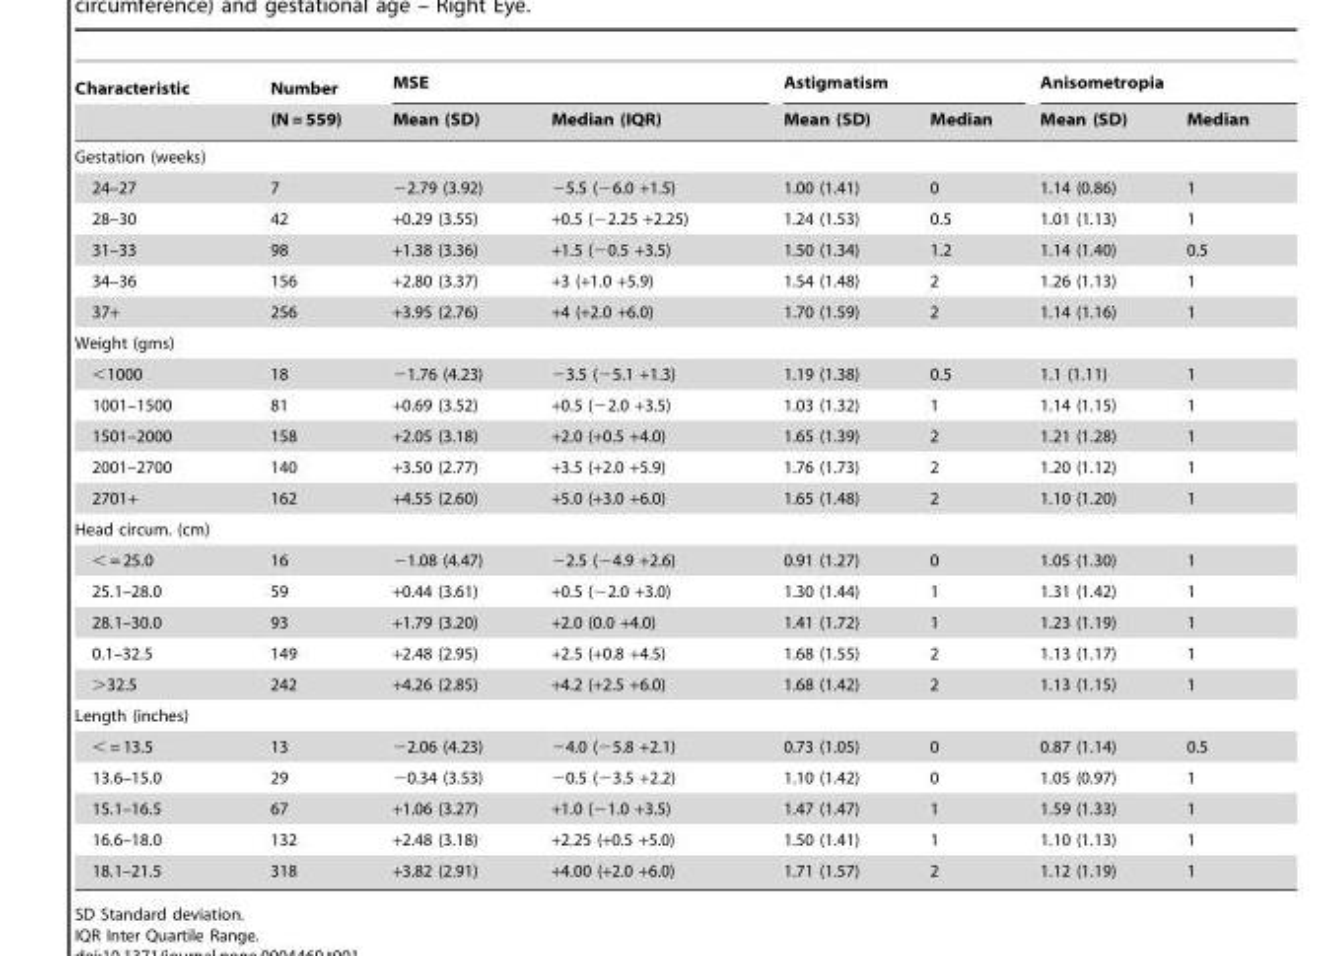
<table><thead><tr><td rowspan="2">Characteristic</td><td rowspan="2">Number (N = 559)</td><td colspan="2">MSE</td><td colspan="2">Astigmatism</td><td colspan="2">Anisometropia</td></tr><tr><td>Mean (SD)</td><td>Median (IQR)</td><td>Mean (SD)</td><td>Median</td><td>Mean (SD)</td><td>Median</td></tr></thead><tbody><tr><td colspan="8">Gestation (weeks)</td></tr><tr><td>24–27</td><td>7</td><td>−2.79 (3.92)</td><td>−5.5 (−6.0 +1.5)</td><td>1.00 (1.41)</td><td>0</td><td>1.14 (0.86)</td><td>1</td></tr><tr><td>28–30</td><td>42</td><td>+0.29 (3.55)</td><td>+0.5 (−2.25 +2.25)</td><td>1.24 (1.53)</td><td>0.5</td><td>1.01 (1.13)</td><td>1</td></tr><tr><td>31–33</td><td>98</td><td>+1.38 (3.36)</td><td>+1.5 (−0.5 +3.5)</td><td>1.50 (1.34)</td><td>1.2</td><td>1.14 (1.40)</td><td>0.5</td></tr><tr><td>34–36</td><td>156</td><td>+2.80 (3.37)</td><td>+3 (+1.0 +5.9)</td><td>1.54 (1.48)</td><td>2</td><td>1.26 (1.13)</td><td>1</td></tr><tr><td>37+</td><td>256</td><td>+3.95 (2.76)</td><td>+4 (+2.0 +6.0)</td><td>1.70 (1.59)</td><td>2</td><td>1.14 (1.16)</td><td>1</td></tr><tr><td colspan="8">Weight (gms)</td></tr><tr><td>&lt;1000</td><td>18</td><td>−1.76 (4.23)</td><td>−3.5 (−5.1 +1.3)</td><td>1.19 (1.38)</td><td>0.5</td><td>1.1 (1.11)</td><td>1</td></tr><tr><td>1001–1500</td><td>81</td><td>+0.69 (3.52)</td><td>+0.5 (−2.0 +3.5)</td><td>1.03 (1.32)</td><td>1</td><td>1.14 (1.15)</td><td>1</td></tr><tr><td>1501–2000</td><td>158</td><td>+2.05 (3.18)</td><td>+2.0 (+0.5 +4.0)</td><td>1.65 (1.39)</td><td>2</td><td>1.21 (1.28)</td><td>1</td></tr><tr><td>2001–2700</td><td>140</td><td>+3.50 (2.77)</td><td>+3.5 (+2.0 +5.9)</td><td>1.76 (1.73)</td><td>2</td><td>1.20 (1.12)</td><td>1</td></tr><tr><td>2701+</td><td>162</td><td>+4.55 (2.60)</td><td>+5.0 (+3.0 +6.0)</td><td>1.65 (1.48)</td><td>2</td><td>1.10 (1.20)</td><td>1</td></tr><tr><td colspan="8">Head circum. (cm)</td></tr><tr><td>&lt; = 25.0</td><td>16</td><td>−1.08 (4.47)</td><td>−2.5 (−4.9 +2.6)</td><td>0.91 (1.27)</td><td>0</td><td>1.05 (1.30)</td><td>1</td></tr><tr><td>25.1–28.0</td><td>59</td><td>+0.44 (3.61)</td><td>+0.5 (−2.0 +3.0)</td><td>1.30 (1.44)</td><td>1</td><td>1.31 (1.42)</td><td>1</td></tr><tr><td>28.1–30.0</td><td>93</td><td>+1.79 (3.20)</td><td>+2.0 (0.0 +4.0)</td><td>1.41 (1.72)</td><td>1</td><td>1.23 (1.19)</td><td>1</td></tr><tr><td>0.1–32.5</td><td>149</td><td>+2.48 (2.95)</td><td>+2.5 (+0.8 +4.5)</td><td>1.68 (1.55)</td><td>2</td><td>1.13 (1.17)</td><td>1</td></tr><tr><td>&gt;32.5</td><td>242</td><td>+4.26 (2.85)</td><td>+4.2 (+2.5 +6.0)</td><td>1.68 (1.42)</td><td>2</td><td>1.13 (1.15)</td><td>1</td></tr><tr><td colspan="8">Length (inches)</td></tr><tr><td>&lt; = 13.5</td><td>13</td><td>−2.06 (4.23)</td><td>−4.0 (−5.8 +2.1)</td><td>0.73 (1.05)</td><td>0</td><td>0.87 (1.14)</td><td>0.5</td></tr><tr><td>13.6–15.0</td><td>29</td><td>−0.34 (3.53)</td><td>−0.5 (−3.5 +2.2)</td><td>1.10 (1.42)</td><td>0</td><td>1.05 (0.97)</td><td>1</td></tr><tr><td>15.1–16.5</td><td>67</td><td>+1.06 (3.27)</td><td>+1.0 (−1.0 +3.5)</td><td>1.47 (1.47)</td><td>1</td><td>1.59 (1.33)</td><td>1</td></tr><tr><td>16.6–18.0</td><td>132</td><td>+2.48 (3.18)</td><td>+2.25 (+0.5 +5.0)</td><td>1.50 (1.41)</td><td>1</td><td>1.10 (1.13)</td><td>1</td></tr><tr><td>18.1–21.5</td><td>318</td><td>+3.82 (2.91)</td><td>+4.00 (+2.0 +6.0)</td><td>1.71 (1.57)</td><td>2</td><td>1.12 (1.19)</td><td>1</td></tr></tbody></table>